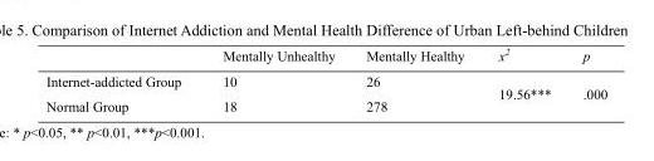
<table><thead><tr><td></td><td>Mentally Unhealthy</td><td>Mentally Healthy</td><td>x<sup>2</sup></td><td>p</td></tr></thead><tbody><tr><td>Internet-addicted Group</td><td>10</td><td>26</td><td rowspan="2">19.56***</td><td rowspan="2">.000</td></tr><tr><td>Normal Group</td><td>18</td><td>278</td></tr></tbody></table>